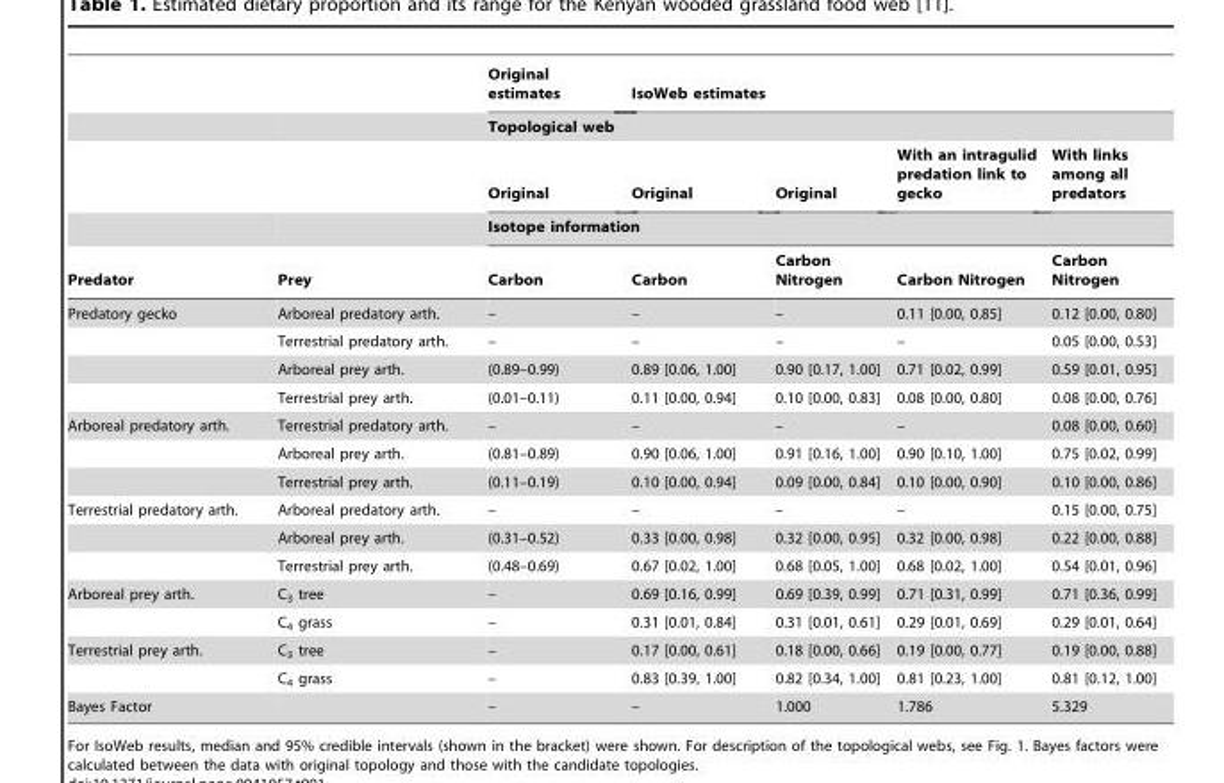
<table><thead><tr><td rowspan="5">Predator</td><td rowspan="5">Prey</td><td>Original estimates</td><td>IsoWeb estimates</td><td></td><td></td><td></td></tr><tr><td colspan="5">Topological web</td></tr><tr><td>Original</td><td>Original</td><td>Original</td><td>With an intragulid predation link to gecko</td><td>With links among all predators</td></tr><tr><td colspan="5">Isotope information</td></tr><tr><td>Carbon</td><td>Carbon</td><td>Carbon Nitrogen</td><td>Carbon Nitrogen</td><td>Carbon Nitrogen</td></tr></thead><tbody><tr><td rowspan="4">Predatory gecko</td><td>Arboreal predatory arth.</td><td>–</td><td>–</td><td>–</td><td>0.11 [0.00, 0.85]</td><td>0.12 [0.00, 0.80]</td></tr><tr><td>Terrestrial predatory arth.</td><td>–</td><td>–</td><td>–</td><td>–</td><td>0.05 [0.00, 0.53]</td></tr><tr><td>Arboreal prey arth.</td><td>(0.89–0.99)</td><td>0.89 [0.06, 1.00]</td><td>0.90 [0.17, 1.00]</td><td>0.71 [0.02, 0.99]</td><td>0.59 [0.01, 0.95]</td></tr><tr><td>Terrestrial prey arth.</td><td>(0.01–0.11)</td><td>0.11 [0.00, 0.94]</td><td>0.10 [0.00, 0.83]</td><td>0.08 [0.00, 0.80]</td><td>0.08 [0.00, 0.76]</td></tr><tr><td rowspan="3">Arboreal predatory arth.</td><td>Terrestrial predatory arth.</td><td>–</td><td>–</td><td>–</td><td>–</td><td>0.08 [0.00, 0.60]</td></tr><tr><td>Arboreal prey arth.</td><td>(0.81–0.89)</td><td>0.90 [0.06, 1.00]</td><td>0.91 [0.16, 1.00]</td><td>0.90 [0.10, 1.00]</td><td>0.75 [0.02, 0.99]</td></tr><tr><td>Terrestrial prey arth.</td><td>(0.11–0.19)</td><td>0.10 [0.00, 0.94]</td><td>0.09 [0.00, 0.84]</td><td>0.10 [0.00, 0.90]</td><td>0.10 [0.00, 0.86]</td></tr><tr><td rowspan="3">Terrestrial predatory arth.</td><td>Arboreal predatory arth.</td><td>–</td><td>–</td><td>–</td><td>–</td><td>0.15 [0.00, 0.75]</td></tr><tr><td>Arboreal prey arth.</td><td>(0.31–0.52)</td><td>0.33 [0.00, 0.98]</td><td>0.32 [0.00, 0.95]</td><td>0.32 [0.00, 0.98]</td><td>0.22 [0.00, 0.88]</td></tr><tr><td>Terrestrial prey arth.</td><td>(0.48–0.69)</td><td>0.67 [0.02, 1.00]</td><td>0.68 [0.05, 1.00]</td><td>0.68 [0.02, 1.00]</td><td>0.54 [0.01, 0.96]</td></tr><tr><td rowspan="2">Arboreal prey arth.</td><td>C<sub>3</sub> tree</td><td>–</td><td>0.69 [0.16, 0.99]</td><td>0.69 [0.39, 0.99]</td><td>0.71 [0.31, 0.99]</td><td>0.71 [0.36, 0.99]</td></tr><tr><td>C<sub>4</sub> grass</td><td>–</td><td>0.31 [0.01, 0.84]</td><td>0.31 [0.01, 0.61]</td><td>0.29 [0.01, 0.69]</td><td>0.29 [0.01, 0.64]</td></tr><tr><td rowspan="2">Terrestrial prey arth.</td><td>C<sub>3</sub> tree</td><td>–</td><td>0.17 [0.00, 0.61]</td><td>0.18 [0.00, 0.66]</td><td>0.19 [0.00, 0.77]</td><td>0.19 [0.00, 0.88]</td></tr><tr><td>C<sub>4</sub> grass</td><td>–</td><td>0.83 [0.39, 1.00]</td><td>0.82 [0.34, 1.00]</td><td>0.81 [0.23, 1.00]</td><td>0.81 [0.12, 1.00]</td></tr><tr><td>Bayes Factor</td><td></td><td>–</td><td>–</td><td>1.000</td><td>1.786</td><td>5.329</td></tr></tbody></table>